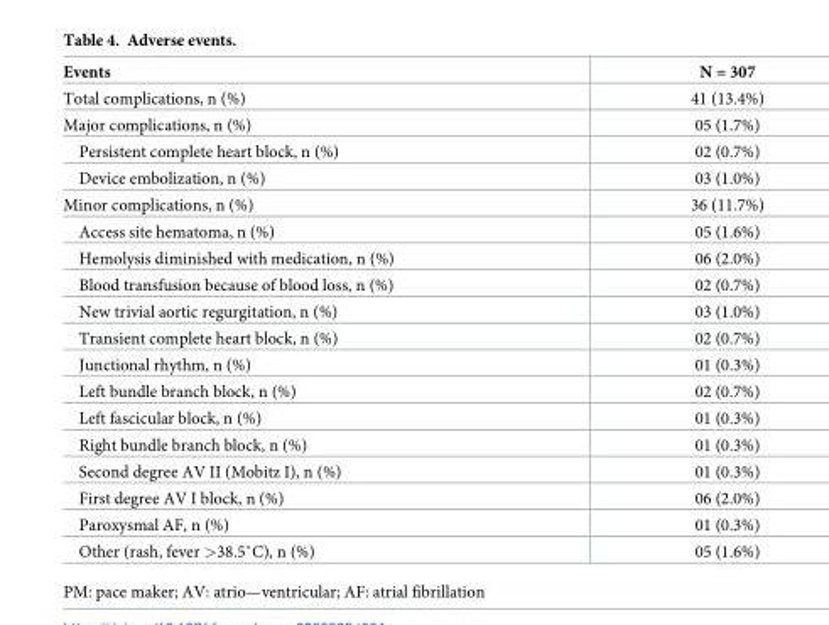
<table><thead><tr><td>Events</td><td>N = 307</td></tr></thead><tbody><tr><td>Total complications, n (%)</td><td>41 (13.4%)</td></tr><tr><td>Major complications, n (%)</td><td>05 (1.7%)</td></tr><tr><td>Persistent complete heart block, n (%)</td><td>02 (0.7%)</td></tr><tr><td>Device embolization, n (%)</td><td>03 (1.0%)</td></tr><tr><td>Minor complications, n (%)</td><td>36 (11.7%)</td></tr><tr><td>Access site hematoma, n (%)</td><td>05 (1.6%)</td></tr><tr><td>Hemolysis diminished with medication, n (%)</td><td>06 (2.0%)</td></tr><tr><td>Blood transfusion because of blood loss, n (%)</td><td>02 (0.7%)</td></tr><tr><td>New trivial aortic regurgitation, n (%)</td><td>03 (1.0%)</td></tr><tr><td>Transient complete heart block, n (%)</td><td>02 (0.7%)</td></tr><tr><td>Junctional rhythm, n (%)</td><td>01 (0.3%)</td></tr><tr><td>Left bundle branch block, n (%)</td><td>02 (0.7%)</td></tr><tr><td>Left fascicular block, n (%)</td><td>01 (0.3%)</td></tr><tr><td>Right bundle branch block, n (%)</td><td>01 (0.3%)</td></tr><tr><td>Second degree AV II (Mobitz I), n (%)</td><td>01 (0.3%)</td></tr><tr><td>First degree AV I block, n (%)</td><td>06 (2.0%)</td></tr><tr><td>Paroxysmal AF, n (%)</td><td>01 (0.3%)</td></tr><tr><td>Other (rash, fever &gt;38.5˚C), n (%)</td><td>05 (1.6%)</td></tr></tbody></table>